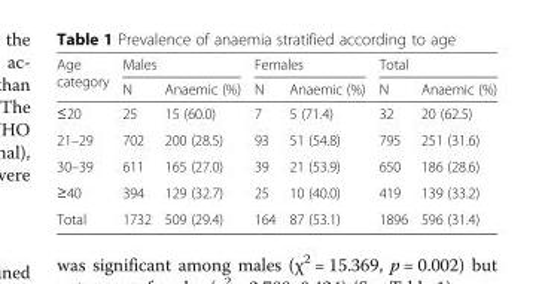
<table><thead><tr><td rowspan="2">Age category</td><td colspan="2">Males</td><td colspan="2">Females</td><td colspan="2">Total</td></tr><tr><td>N</td><td>Anaemic (%)</td><td>N</td><td>Anaemic (%)</td><td>N</td><td>Anaemic (%)</td></tr></thead><tbody><tr><td>≤20</td><td>25</td><td>15 (60.0)</td><td>7</td><td>5 (71.4)</td><td>32</td><td>20 (62.5)</td></tr><tr><td>21–29</td><td>702</td><td>200 (28.5)</td><td>93</td><td>51 (54.8)</td><td>795</td><td>251 (31.6)</td></tr><tr><td>30–39</td><td>611</td><td>165 (27.0)</td><td>39</td><td>21 (53.9)</td><td>650</td><td>186 (28.6)</td></tr><tr><td>≥40</td><td>394</td><td>129 (32.7)</td><td>25</td><td>10 (40.0)</td><td>419</td><td>139 (33.2)</td></tr><tr><td>Total</td><td>1732</td><td>509 (29.4)</td><td>164</td><td>87 (53.1)</td><td>1896</td><td>596 (31.4)</td></tr></tbody></table>